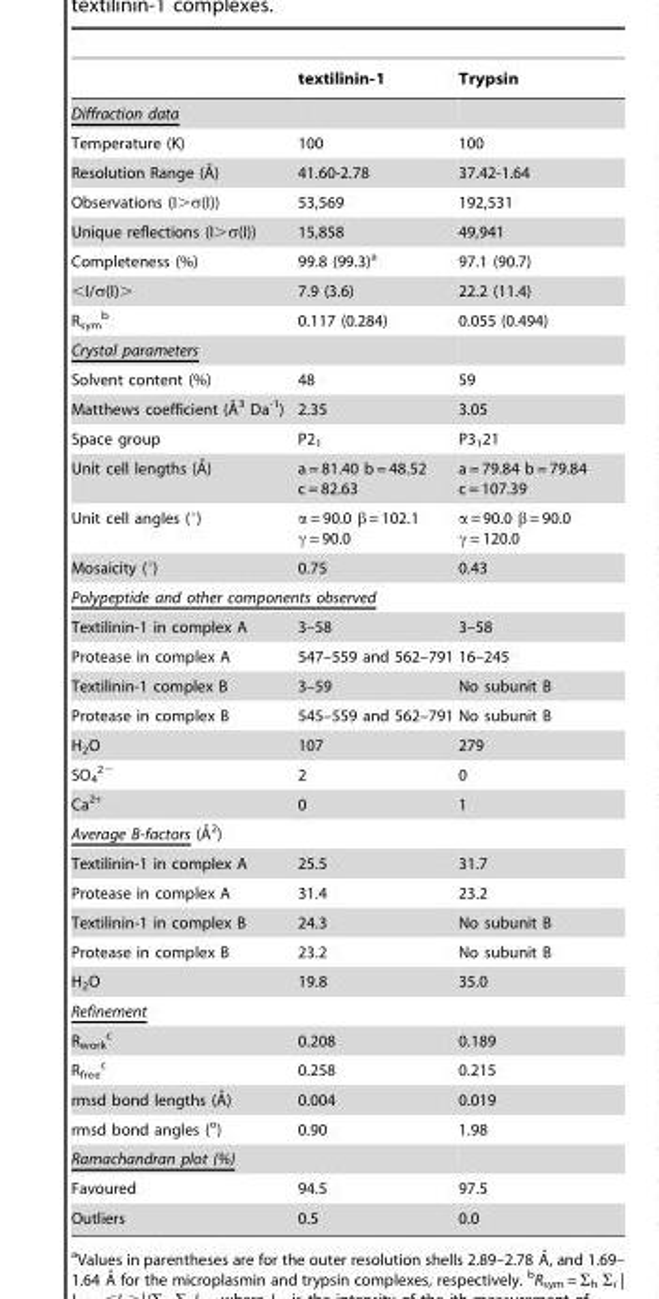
<table><thead><tr><td></td><td>textilinin-1</td><td>Trypsin</td></tr></thead><tbody><tr><td colspan="3">Diffraction data</td></tr><tr><td>Temperature (K)</td><td>100</td><td>100</td></tr><tr><td>Resolution Range (A˚)</td><td>41.60-2.78</td><td>37.42-1.64</td></tr><tr><td>Observations (I&gt;σ(I))</td><td>53,569</td><td>192,531</td></tr><tr><td>Unique reflections (I&gt;σ(I))</td><td>15,858</td><td>49,941</td></tr><tr><td>Completeness (%)</td><td>99.8 (99.3)<sup>a</sup></td><td>97.1 (90.7)</td></tr><tr><td>&lt;I/σ(I)&gt;</td><td>7.9 (3.6)</td><td>22.2 (11.4)</td></tr><tr><td>R<sub>sym</sub> <sup>b</sup></td><td>0.117 (0.284)</td><td>0.055 (0.494)</td></tr><tr><td colspan="3">Crystal parameters</td></tr><tr><td>Solvent content (%)</td><td>48</td><td>59</td></tr><tr><td>Matthews coefficient (A˚ 3 Da-1)</td><td>2.35</td><td>3.05</td></tr><tr><td>Space group</td><td>P2<sub>1</sub></td><td>P3<sub>1</sub>21</td></tr><tr><td>Unit cell lengths (A˚)</td><td>a = 81.40 b = 48.52 c = 82.63</td><td>a = 79.84 b = 79.84 c = 107.39</td></tr><tr><td>Unit cell angles (°)</td><td>α = 90.0 β = 102.1 γ = 90.0</td><td>α = 90.0 β = 90.0 γ = 120.0</td></tr><tr><td>Mosaicity (°)</td><td>0.75</td><td>0.43</td></tr><tr><td colspan="3">Polypeptide and other components observed</td></tr><tr><td>Textilinin-1 in complex A</td><td>3–58</td><td>3–58</td></tr><tr><td>Protease in complex A</td><td>547–559 and 562–791</td><td>16–245</td></tr><tr><td>Textilinin-1 complex B</td><td>3–59</td><td>No subunit B</td></tr><tr><td>Protease in complex B</td><td>545–559 and 562–791</td><td>No subunit B</td></tr><tr><td>H<sub>2</sub>O</td><td>107</td><td>279</td></tr><tr><td>SO<sub>4</sub> <sup>2−</sup></td><td>2</td><td>0</td></tr><tr><td>Ca<sup>2+</sup></td><td>0</td><td>1</td></tr><tr><td colspan="3">Average B-factors (A˚2)</td></tr><tr><td>Textilinin-1 in complex A</td><td>25.5</td><td>31.7</td></tr><tr><td>Protease in complex A</td><td>31.4</td><td>23.2</td></tr><tr><td>Textilinin-1 in complex B</td><td>24.3</td><td>No subunit B</td></tr><tr><td>Protease in complex B</td><td>23.2</td><td>No subunit B</td></tr><tr><td>H<sub>2</sub>O</td><td>19.8</td><td>35.0</td></tr><tr><td colspan="3">Refinement</td></tr><tr><td>R<sub>work</sub> <sup>c</sup></td><td>0.208</td><td>0.189</td></tr><tr><td>R<sub>free</sub> <sup>c</sup></td><td>0.258</td><td>0.215</td></tr><tr><td>rmsd bond lengths (A˚)</td><td>0.004</td><td>0.019</td></tr><tr><td>rmsd bond angles (<sup>o</sup>)</td><td>0.90</td><td>1.98</td></tr><tr><td colspan="3">Ramachandran plot (%)</td></tr><tr><td>Favoured</td><td>94.5</td><td>97.5</td></tr><tr><td>Outliers</td><td>0.5</td><td>0.0</td></tr></tbody></table>